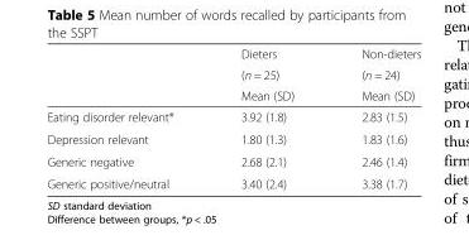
<table><thead><tr><td rowspan="3"></td><td rowspan="3">Dieters (n = 25) Mean (SD)</td><td rowspan="3">Non-dieters (n = 24) Mean (SD)</td></tr><tr></tr><tr></tr></thead><tbody><tr><td>Eating disorder relevant*</td><td>3.92 (1.8)</td><td>2.83 (1.5)</td></tr><tr><td>Depression relevant</td><td>1.80 (1.3)</td><td>1.83 (1.6)</td></tr><tr><td>Generic negative</td><td>2.68 (2.1)</td><td>2.46 (1.4)</td></tr><tr><td>Generic positive/neutral</td><td>3.40 (2.4)</td><td>3.38 (1.7)</td></tr></tbody></table>